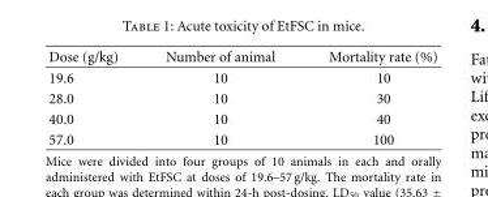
<table><thead><tr><td>Dose (g/kg)</td><td>Number of animal</td><td>Mortality rate (%)</td></tr></thead><tbody><tr><td>19.6</td><td>10</td><td>10</td></tr><tr><td>28.0</td><td>10</td><td>30</td></tr><tr><td>40.0</td><td>10</td><td>40</td></tr><tr><td>57.0</td><td>10</td><td>100</td></tr></tbody></table>